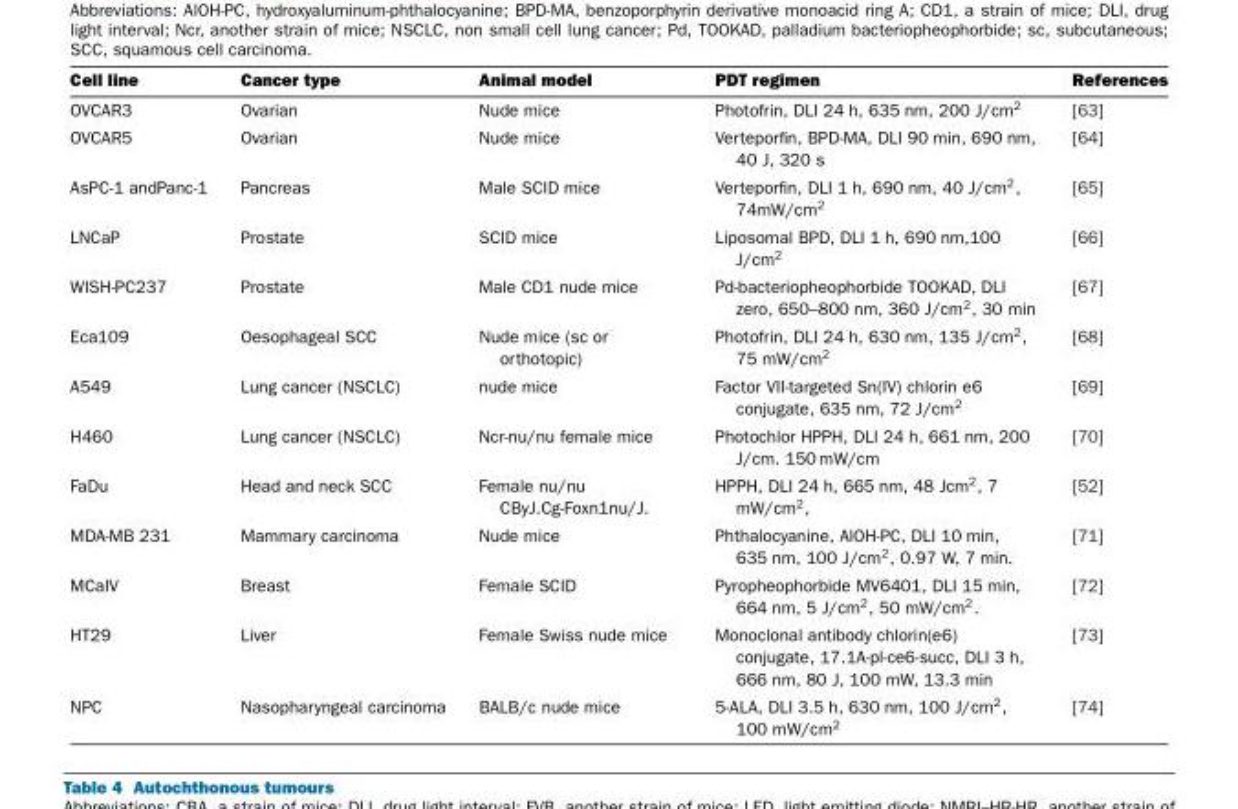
<table><thead><tr><td>Cell line</td><td>Cancer type</td><td>Animal model</td><td>PDT regimen</td><td>References</td></tr></thead><tbody><tr><td>OVCAR3</td><td>Ovarian</td><td>Nude mice</td><td>Photofrin, DLI 24 h, 635 nm, 200 J/cm2</td><td>[63]</td></tr><tr><td>OVCAR5</td><td>Ovarian</td><td>Nude mice</td><td>Verteporfin, BPD-MA, DLI 90 min, 690 nm, 40 J, 320 s</td><td>[64]</td></tr><tr><td>AsPC-1 andPanc-1</td><td>Pancreas</td><td>Male SCID mice</td><td>Verteporfin, DLI 1 h, 690 nm, 40 J/cm2, 74mW/cm2</td><td>[65]</td></tr><tr><td>LNCaP</td><td>Prostate</td><td>SCID mice</td><td>Liposomal BPD, DLI 1 h, 690 nm,100 J/cm2</td><td>[66]</td></tr><tr><td>WISH-PC237</td><td>Prostate</td><td>Male CD1 nude mice</td><td>Pd-bacteriopheophorbide TOOKAD, DLI zero, 650–800 nm, 360 J/cm2, 30 min</td><td>[67]</td></tr><tr><td>Eca109</td><td>Oesophageal SCC</td><td>Nude mice (sc or orthotopic)</td><td>Photofrin, DLI 24 h, 630 nm, 135 J/cm2, 75 mW/cm2</td><td>[68]</td></tr><tr><td>A549</td><td>Lung cancer (NSCLC)</td><td>nude mice</td><td>Factor VII-targeted Sn(IV) chlorin e6 conjugate, 635 nm, 72 J/cm2</td><td>[69]</td></tr><tr><td>H460</td><td>Lung cancer (NSCLC)</td><td>Ncr-nu/nu female mice</td><td>Photochlor HPPH, DLI 24 h, 661 nm, 200 J/cm. 150 mW/cm</td><td>[70]</td></tr><tr><td>FaDu</td><td>Head and neck SCC</td><td>Female nu/nu CByJ.Cg-Foxn1nu/J.</td><td>HPPH, DLI 24 h, 665 nm, 48 Jcm2, 7 mW/cm2,</td><td>[52]</td></tr><tr><td>MDA-MB 231</td><td>Mammary carcinoma</td><td>Nude mice</td><td>Phthalocyanine, AlOH-PC, DLI 10 min, 635 nm, 100 J/cm2, 0.97 W, 7 min.</td><td>[71]</td></tr><tr><td>MCaIV</td><td>Breast</td><td>Female SCID</td><td>Pyropheophorbide MV6401, DLI 15 min, 664 nm, 5 J/cm2, 50 mW/cm2.</td><td>[72]</td></tr><tr><td>HT29</td><td>Liver</td><td>Female Swiss nude mice</td><td>Monoclonal antibody chlorin(e6) conjugate, 17.1A-pl-ce6-succ, DLI 3 h, 666 nm, 80 J, 100 mW, 13.3 min</td><td>[73]</td></tr><tr><td>NPC</td><td>Nasopharyngeal carcinoma</td><td>BALB/c nude mice</td><td>5-ALA, DLI 3.5 h, 630 nm, 100 J/cm2, 100 mW/cm2</td><td>[74]</td></tr></tbody></table>